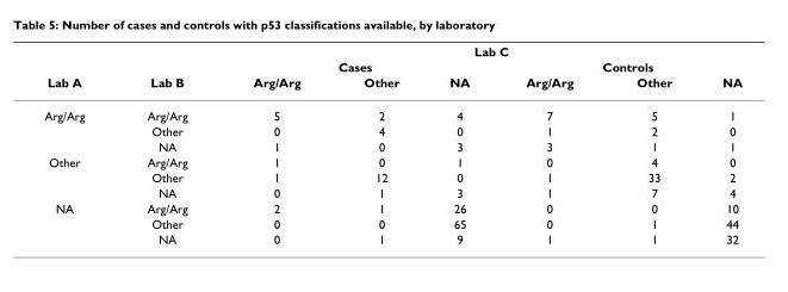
<table><thead><tr><td rowspan="3">Lab A</td><td rowspan="3">Lab B</td><td colspan="6">Lab C</td></tr><tr><td colspan="3">Cases</td><td colspan="3">Controls</td></tr><tr><td>Arg/Arg</td><td>Other</td><td>NA</td><td>Arg/Arg</td><td>Other</td><td>NA</td></tr></thead><tbody><tr><td rowspan="3">Arg/Arg</td><td>Arg/Arg</td><td>5</td><td>2</td><td>4</td><td>7</td><td>5</td><td>1</td></tr><tr><td>Other</td><td>0</td><td>4</td><td>0</td><td>1</td><td>2</td><td>0</td></tr><tr><td>NA</td><td>1</td><td>0</td><td>3</td><td>3</td><td>1</td><td>1</td></tr><tr><td rowspan="3">Other</td><td>Arg/Arg</td><td>1</td><td>0</td><td>1</td><td>0</td><td>4</td><td>0</td></tr><tr><td>Other</td><td>1</td><td>12</td><td>0</td><td>1</td><td>33</td><td>2</td></tr><tr><td>NA</td><td>0</td><td>1</td><td>3</td><td>1</td><td>7</td><td>4</td></tr><tr><td rowspan="3">NA</td><td>Arg/Arg</td><td>2</td><td>1</td><td>26</td><td>0</td><td>0</td><td>10</td></tr><tr><td>Other</td><td>0</td><td>0</td><td>65</td><td>0</td><td>1</td><td>44</td></tr><tr><td>NA</td><td>0</td><td>1</td><td>9</td><td>1</td><td>1</td><td>32</td></tr></tbody></table>